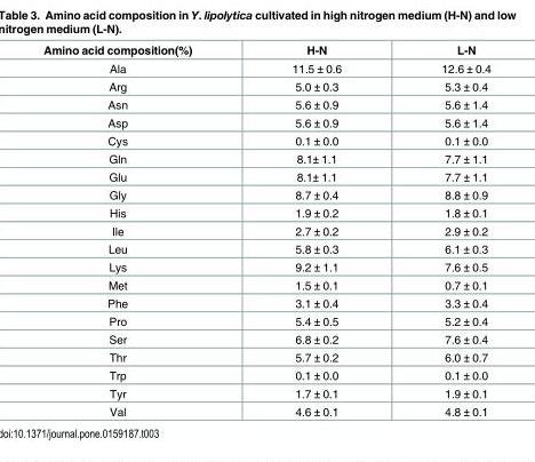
<table><thead><tr><td>Amino acid composition(%)</td><td>H-N</td><td>L-N</td></tr></thead><tbody><tr><td>Ala</td><td>11.5 ± 0.6</td><td>12.6 ± 0.4</td></tr><tr><td>Arg</td><td>5.0 ± 0.3</td><td>5.3 ± 0.4</td></tr><tr><td>Asn</td><td>5.6 ± 0.9</td><td>5.6 ± 1.4</td></tr><tr><td>Asp</td><td>5.6 ± 0.9</td><td>5.6 ± 1.4</td></tr><tr><td>Cys</td><td>0.1 ± 0.0</td><td>0.1 ± 0.0</td></tr><tr><td>Gln</td><td>8.1± 1.1</td><td>7.7 ± 1.1</td></tr><tr><td>Glu</td><td>8.1± 1.1</td><td>7.7 ± 1.1</td></tr><tr><td>Gly</td><td>8.7 ± 0.4</td><td>8.8 ± 0.9</td></tr><tr><td>His</td><td>1.9 ± 0.2</td><td>1.8 ± 0.1</td></tr><tr><td>Ile</td><td>2.7 ± 0.2</td><td>2.9 ± 0.2</td></tr><tr><td>Leu</td><td>5.8 ± 0.3</td><td>6.1 ± 0.3</td></tr><tr><td>Lys</td><td>9.2 ± 1.1</td><td>7.6 ± 0.5</td></tr><tr><td>Met</td><td>1.5 ± 0.1</td><td>0.7 ± 0.1</td></tr><tr><td>Phe</td><td>3.1 ± 0.4</td><td>3.3 ± 0.4</td></tr><tr><td>Pro</td><td>5.4 ± 0.5</td><td>5.2 ± 0.4</td></tr><tr><td>Ser</td><td>6.8 ± 0.2</td><td>7.6 ± 0.4</td></tr><tr><td>Thr</td><td>5.7 ± 0.2</td><td>6.0 ± 0.7</td></tr><tr><td>Trp</td><td>0.1 ± 0.0</td><td>0.1 ± 0.0</td></tr><tr><td>Tyr</td><td>1.7 ± 0.1</td><td>1.9 ± 0.1</td></tr><tr><td>Val</td><td>4.6 ± 0.1</td><td>4.8 ± 0.1</td></tr></tbody></table>